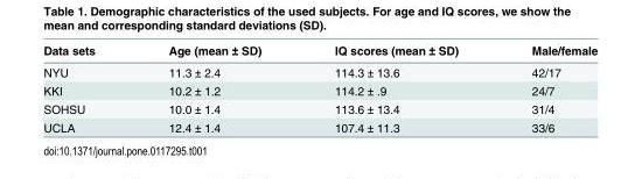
<table><thead><tr><td>Data sets</td><td>Age (mean ± SD)</td><td>IQ scores (mean ± SD)</td><td>Male/female</td></tr></thead><tbody><tr><td>NYU</td><td>11.3 ± 2.4</td><td>114.3 ± 13.6</td><td>42/17</td></tr><tr><td>KKI</td><td>10.2 ± 1.2</td><td>114.2 ± .9</td><td>24/7</td></tr><tr><td>SOHSU</td><td>10.0 ± 1.4</td><td>113.6 ± 13.4</td><td>31/4</td></tr><tr><td>UCLA</td><td>12.4 ± 1.4</td><td>107.4 ± 11.3</td><td>33/6</td></tr></tbody></table>